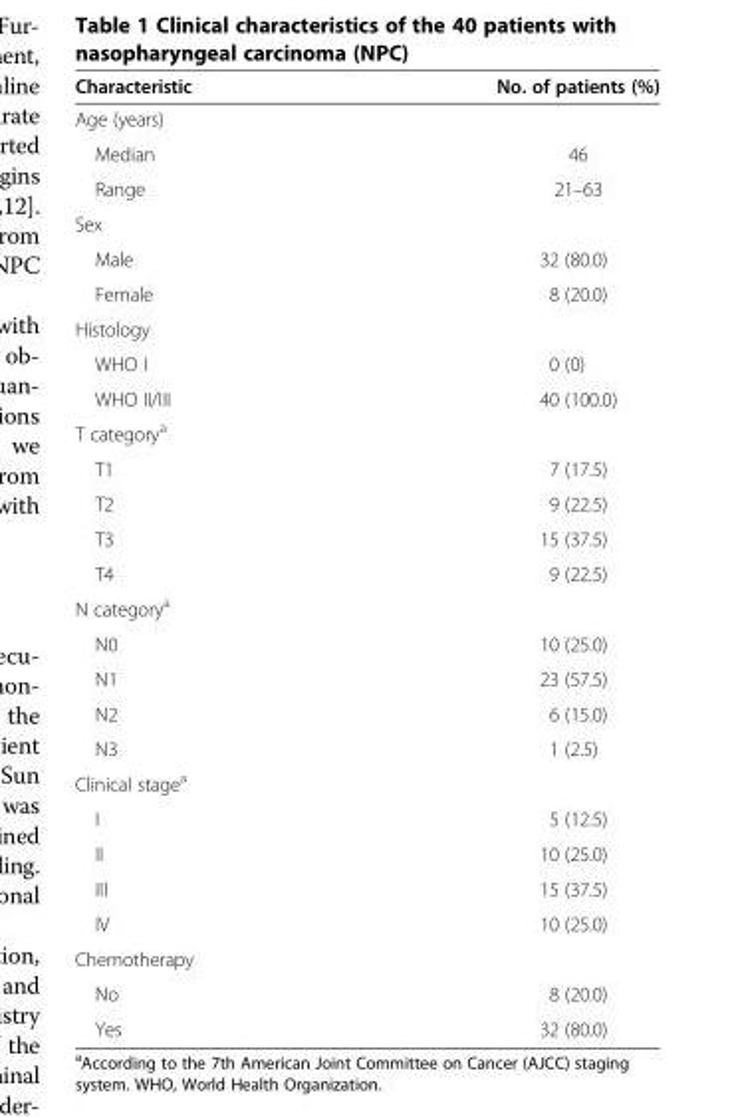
<table><thead><tr><td>Characteristic</td><td>No. of patients (%)</td></tr></thead><tbody><tr><td colspan="2">Age (years)</td></tr><tr><td>Median</td><td>46</td></tr><tr><td>Range</td><td>21–63</td></tr><tr><td colspan="2">Sex</td></tr><tr><td>Male</td><td>32 (80.0)</td></tr><tr><td>Female</td><td>8 (20.0)</td></tr><tr><td colspan="2">Histology</td></tr><tr><td>WHO I</td><td>0 (0)</td></tr><tr><td>WHO II/III</td><td>40 (100.0)</td></tr><tr><td colspan="2">T category<sup>a</sup></td></tr><tr><td>T1</td><td>7 (17.5)</td></tr><tr><td>T2</td><td>9 (22.5)</td></tr><tr><td>T3</td><td>15 (37.5)</td></tr><tr><td>T4</td><td>9 (22.5)</td></tr><tr><td colspan="2">N category<sup>a</sup></td></tr><tr><td>N0</td><td>10 (25.0)</td></tr><tr><td>N1</td><td>23 (57.5)</td></tr><tr><td>N2</td><td>6 (15.0)</td></tr><tr><td>N3</td><td>1 (2.5)</td></tr><tr><td colspan="2">Clinical stage<sup>a</sup></td></tr><tr><td>I</td><td>5 (12.5)</td></tr><tr><td>II</td><td>10 (25.0)</td></tr><tr><td>III</td><td>15 (37.5)</td></tr><tr><td>IV</td><td>10 (25.0)</td></tr><tr><td colspan="2">Chemotherapy</td></tr><tr><td>No</td><td>8 (20.0)</td></tr><tr><td>Yes</td><td>32 (80.0)</td></tr></tbody></table>